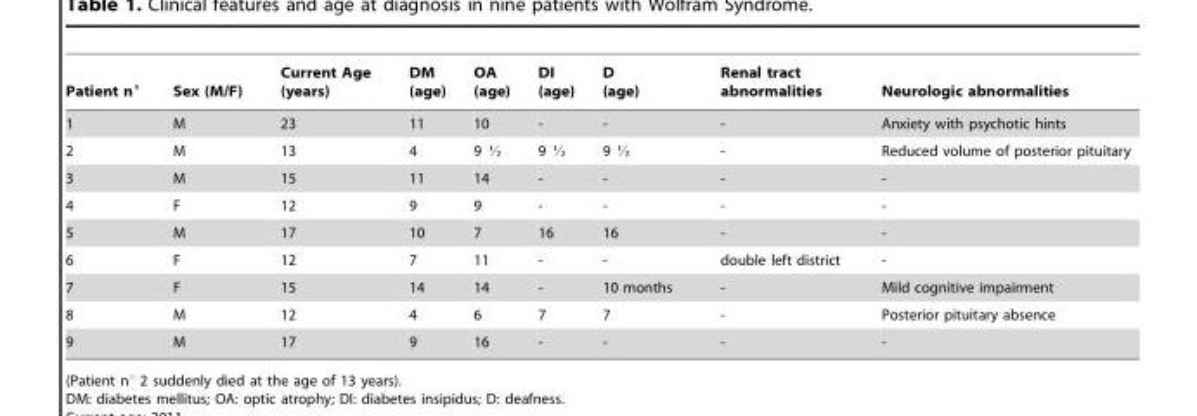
<table><thead><tr><td>Patient n°</td><td>Sex (M/F)</td><td>Current Age (years)</td><td>DM (age)</td><td>OA (age)</td><td>DI (age)</td><td>D (age)</td><td>Renal tract abnormalities</td><td>Neurologic abnormalities</td></tr></thead><tbody><tr><td>1</td><td>M</td><td>23</td><td>11</td><td>10</td><td>-</td><td>-</td><td>-</td><td>Anxiety with psychotic hints</td></tr><tr><td>2</td><td>M</td><td>13</td><td>4</td><td>9 K</td><td>9 K</td><td>9 K</td><td>-</td><td>Reduced volume of posterior pituitary</td></tr><tr><td>3</td><td>M</td><td>15</td><td>11</td><td>14</td><td>-</td><td>-</td><td>-</td><td>-</td></tr><tr><td>4</td><td>F</td><td>12</td><td>9</td><td>9</td><td>-</td><td>-</td><td>-</td><td>-</td></tr><tr><td>5</td><td>M</td><td>17</td><td>10</td><td>7</td><td>16</td><td>16</td><td>-</td><td>-</td></tr><tr><td>6</td><td>F</td><td>12</td><td>7</td><td>11</td><td>-</td><td>-</td><td>double left district</td><td>-</td></tr><tr><td>7</td><td>F</td><td>15</td><td>14</td><td>14</td><td>-</td><td>10 months</td><td>-</td><td>Mild cognitive impairment</td></tr><tr><td>8</td><td>M</td><td>12</td><td>4</td><td>6</td><td>7</td><td>7</td><td>-</td><td>Posterior pituitary absence</td></tr><tr><td>9</td><td>M</td><td>17</td><td>9</td><td>16</td><td>-</td><td>-</td><td>-</td><td>-</td></tr></tbody></table>